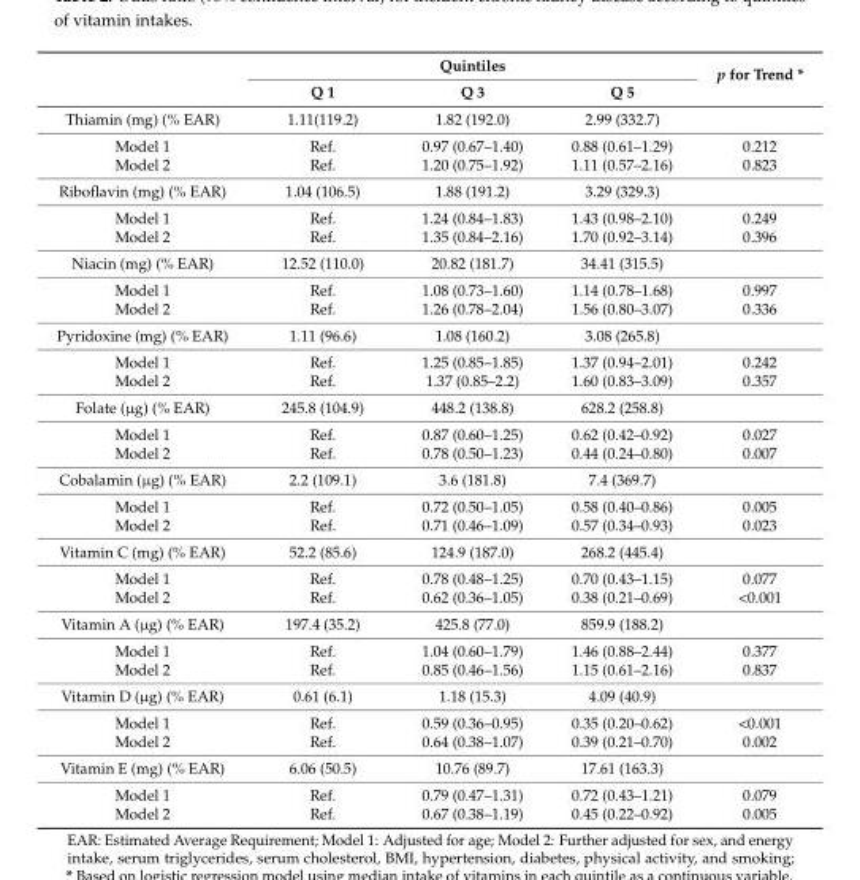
<table><thead><tr><td rowspan="2"></td><td colspan="3">Quintiles</td><td rowspan="2">p for Trend *</td></tr><tr><td>Q 1</td><td>Q 3</td><td>Q 5</td></tr></thead><tbody><tr><td>Thiamin (mg) (% EAR)</td><td>1.11(119.2)</td><td>1.82 (192.0)</td><td>2.99 (332.7)</td><td></td></tr><tr><td>Model 1</td><td>Ref.</td><td>0.97 (0.67–1.40)</td><td>0.88 (0.61–1.29)</td><td>0.212</td></tr><tr><td>Model 2</td><td>Ref.</td><td>1.20 (0.75–1.92)</td><td>1.11 (0.57–2.16)</td><td>0.823</td></tr><tr><td>Riboflavin (mg) (% EAR)</td><td>1.04 (106.5)</td><td>1.88 (191.2)</td><td>3.29 (329.3)</td><td></td></tr><tr><td>Model 1</td><td>Ref.</td><td>1.24 (0.84–1.83)</td><td>1.43 (0.98–2.10)</td><td>0.249</td></tr><tr><td>Model 2</td><td>Ref.</td><td>1.35 (0.84–2.16)</td><td>1.70 (0.92–3.14)</td><td>0.396</td></tr><tr><td>Niacin (mg) (% EAR)</td><td>12.52 (110.0)</td><td>20.82 (181.7)</td><td>34.41 (315.5)</td><td></td></tr><tr><td>Model 1</td><td>Ref.</td><td>1.08 (0.73–1.60)</td><td>1.14 (0.78–1.68)</td><td>0.997</td></tr><tr><td>Model 2</td><td>Ref.</td><td>1.26 (0.78–2.04)</td><td>1.56 (0.80–3.07)</td><td>0.336</td></tr><tr><td>Pyridoxine (mg) (% EAR)</td><td>1.11 (96.6)</td><td>1.08 (160.2)</td><td>3.08 (265.8)</td><td></td></tr><tr><td>Model 1</td><td>Ref.</td><td>1.25 (0.85–1.85)</td><td>1.37 (0.94–2.01)</td><td>0.242</td></tr><tr><td>Model 2</td><td>Ref.</td><td>1.37 (0.85–2.2)</td><td>1.60 (0.83–3.09)</td><td>0.357</td></tr><tr><td>Folate (µg) (% EAR)</td><td>245.8 (104.9)</td><td>448.2 (138.8)</td><td>628.2 (258.8)</td><td></td></tr><tr><td>Model 1</td><td>Ref.</td><td>0.87 (0.60–1.25)</td><td>0.62 (0.42–0.92)</td><td>0.027</td></tr><tr><td>Model 2</td><td>Ref.</td><td>0.78 (0.50–1.23)</td><td>0.44 (0.24–0.80)</td><td>0.007</td></tr><tr><td>Cobalamin (µg) (% EAR)</td><td>2.2 (109.1)</td><td>3.6 (181.8)</td><td>7.4 (369.7)</td><td></td></tr><tr><td>Model 1</td><td>Ref.</td><td>0.72 (0.50–1.05)</td><td>0.58 (0.40–0.86)</td><td>0.005</td></tr><tr><td>Model 2</td><td>Ref.</td><td>0.71 (0.46–1.09)</td><td>0.57 (0.34–0.93)</td><td>0.023</td></tr><tr><td>Vitamin C (mg) (% EAR)</td><td>52.2 (85.6)</td><td>124.9 (187.0)</td><td>268.2 (445.4)</td><td></td></tr><tr><td>Model 1</td><td>Ref.</td><td>0.78 (0.48–1.25)</td><td>0.70 (0.43–1.15)</td><td>0.077</td></tr><tr><td>Model 2</td><td>Ref.</td><td>0.62 (0.36–1.05)</td><td>0.38 (0.21–0.69)</td><td>&lt;0.001</td></tr><tr><td>Vitamin A (µg) (% EAR)</td><td>197.4 (35.2)</td><td>425.8 (77.0)</td><td>859.9 (188.2)</td><td></td></tr><tr><td>Model 1</td><td>Ref.</td><td>1.04 (0.60–1.79)</td><td>1.46 (0.88–2.44)</td><td>0.377</td></tr><tr><td>Model 2</td><td>Ref.</td><td>0.85 (0.46–1.56)</td><td>1.15 (0.61–2.16)</td><td>0.837</td></tr><tr><td>Vitamin D (µg) (% EAR)</td><td>0.61 (6.1)</td><td>1.18 (15.3)</td><td>4.09 (40.9)</td><td></td></tr><tr><td>Model 1</td><td>Ref.</td><td>0.59 (0.36–0.95)</td><td>0.35 (0.20–0.62)</td><td>&lt;0.001</td></tr><tr><td>Model 2</td><td>Ref.</td><td>0.64 (0.38–1.07)</td><td>0.39 (0.21–0.70)</td><td>0.002</td></tr><tr><td>Vitamin E (mg) (% EAR)</td><td>6.06 (50.5)</td><td>10.76 (89.7)</td><td>17.61 (163.3)</td><td></td></tr><tr><td>Model 1</td><td>Ref.</td><td>0.79 (0.47–1.31)</td><td>0.72 (0.43–1.21)</td><td>0.079</td></tr><tr><td>Model 2</td><td>Ref.</td><td>0.67 (0.38–1.19)</td><td>0.45 (0.22–0.92)</td><td>0.005</td></tr></tbody></table>